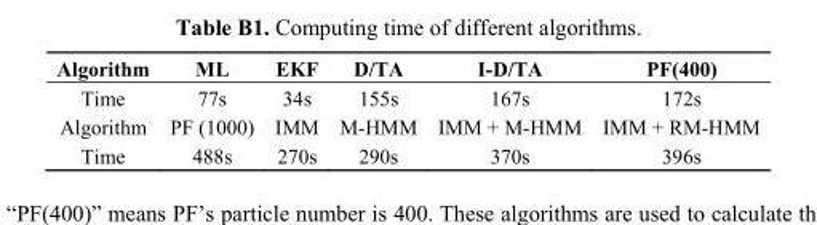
<table><thead><tr><td>Algorithm</td><td>ML</td><td>EKF</td><td>D/TA</td><td>I-D/TA</td><td>PF(400)</td></tr></thead><tbody><tr><td>Time</td><td>77s</td><td>34s</td><td>155s</td><td>167s</td><td>172s</td></tr><tr><td>Algorithm</td><td>PF (1000)</td><td>IMM</td><td>M-HMM</td><td>IMM + M-HMM</td><td>IMM + RM-HMM</td></tr><tr><td>Time</td><td>488s</td><td>270s</td><td>290s</td><td>370s</td><td>396s</td></tr></tbody></table>